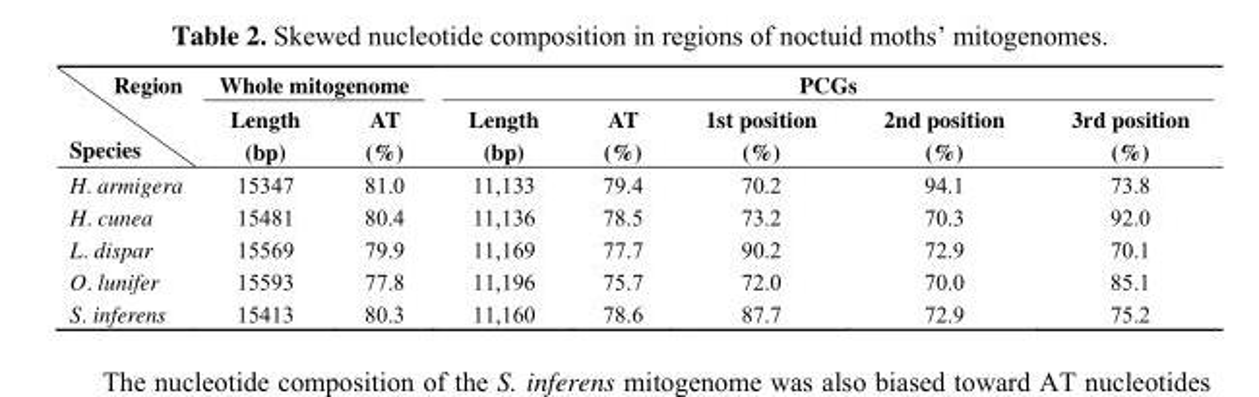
<table><thead><tr><td rowspan="2">Region Species</td><td colspan="2">Whole mitogenome</td><td colspan="5">PCGs</td></tr><tr><td>Length (bp)</td><td>AT (%)</td><td>Length (bp)</td><td>AT (%)</td><td>1st position (%)</td><td>2nd position (%)</td><td>3rd position (%)</td></tr></thead><tbody><tr><td>H. armigera</td><td>15347</td><td>81.0</td><td>11,133</td><td>79.4</td><td>70.2</td><td>94.1</td><td>73.8</td></tr><tr><td>H. cunea</td><td>15481</td><td>80.4</td><td>11,136</td><td>78.5</td><td>73.2</td><td>70.3</td><td>92.0</td></tr><tr><td>L. dispar</td><td>15569</td><td>79.9</td><td>11,169</td><td>77.7</td><td>90.2</td><td>72.9</td><td>70.1</td></tr><tr><td>O. lunifer</td><td>15593</td><td>77.8</td><td>11,196</td><td>75.7</td><td>72.0</td><td>70.0</td><td>85.1</td></tr><tr><td>S. inferens</td><td>15413</td><td>80.3</td><td>11,160</td><td>78.6</td><td>87.7</td><td>72.9</td><td>75.2</td></tr></tbody></table>